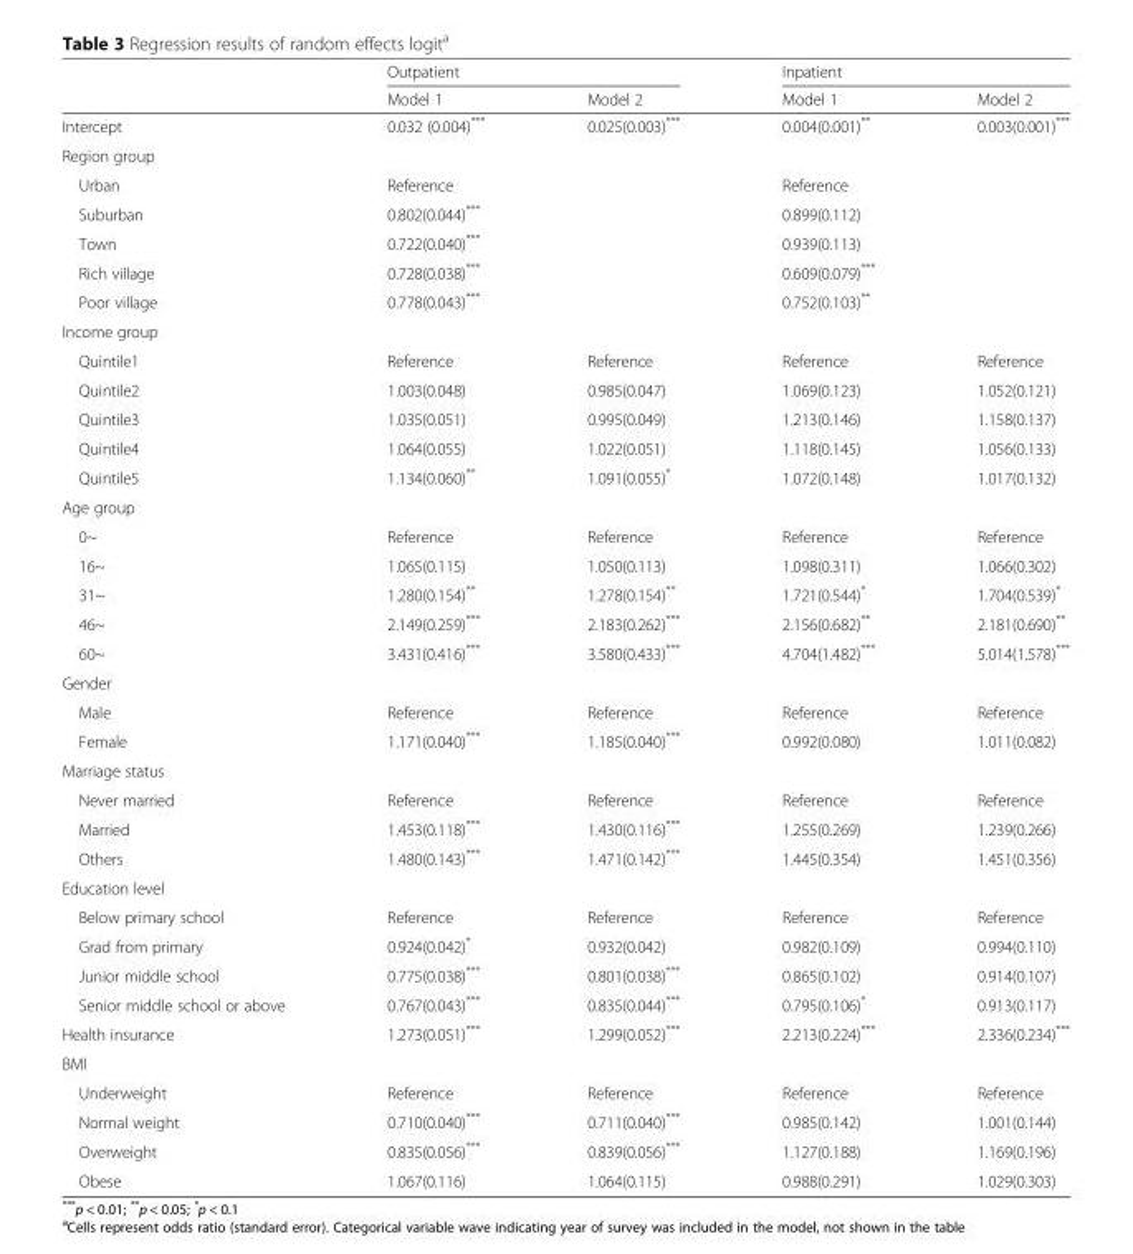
<table><thead><tr><td rowspan="2"></td><td colspan="2">Outpatient</td><td colspan="2">Inpatient</td></tr><tr><td>Model 1</td><td>Model 2</td><td>Model 1</td><td>Model 2</td></tr></thead><tbody><tr><td>Intercept</td><td>0.032 (0.004)***</td><td>0.025(0.003)***</td><td>0.004(0.001)**</td><td>0.003(0.001)***</td></tr><tr><td colspan="5">Region group</td></tr><tr><td>Urban</td><td colspan="2">Reference</td><td colspan="2">Reference</td></tr><tr><td>Suburban</td><td colspan="2">0.802(0.044)***</td><td colspan="2">0.899(0.112)</td></tr><tr><td>Town</td><td colspan="2">0.722(0.040)***</td><td colspan="2">0.939(0.113)</td></tr><tr><td>Rich village</td><td colspan="2">0.728(0.038)***</td><td colspan="2">0.609(0.079)***</td></tr><tr><td>Poor village</td><td colspan="2">0.778(0.043)***</td><td colspan="2">0.752(0.103)**</td></tr><tr><td colspan="5">Income group</td></tr><tr><td>Quintile1</td><td>Reference</td><td>Reference</td><td>Reference</td><td>Reference</td></tr><tr><td>Quintile2</td><td>1.003(0.048)</td><td>0.985(0.047)</td><td>1.069(0.123)</td><td>1.052(0.121)</td></tr><tr><td>Quintile3</td><td>1.035(0.051)</td><td>0.995(0.049)</td><td>1.213(0.146)</td><td>1.158(0.137)</td></tr><tr><td>Quintile4</td><td>1.064(0.055)</td><td>1.022(0.051)</td><td>1.118(0.145)</td><td>1.056(0.133)</td></tr><tr><td>Quintile5</td><td>1.134(0.060)**</td><td>1.091(0.055)*</td><td>1.072(0.148)</td><td>1.017(0.132)</td></tr><tr><td colspan="5">Age group</td></tr><tr><td>0~</td><td>Reference</td><td>Reference</td><td>Reference</td><td>Reference</td></tr><tr><td>16~</td><td>1.065(0.115)</td><td>1.050(0.113)</td><td>1.098(0.311)</td><td>1.066(0.302)</td></tr><tr><td>31~</td><td>1.280(0.154)**</td><td>1.278(0.154)**</td><td>1.721(0.544)*</td><td>1.704(0.539)*</td></tr><tr><td>46~</td><td>2.149(0.259)***</td><td>2.183(0.262)***</td><td>2.156(0.682)**</td><td>2.181(0.690)**</td></tr><tr><td>60~</td><td>3.431(0.416)***</td><td>3.580(0.433)***</td><td>4.704(1.482)***</td><td>5.014(1.578)***</td></tr><tr><td colspan="5">Gender</td></tr><tr><td>Male</td><td>Reference</td><td>Reference</td><td>Reference</td><td>Reference</td></tr><tr><td>Female</td><td>1.171(0.040)***</td><td>1.185(0.040)***</td><td>0.992(0.080)</td><td>1.011(0.082)</td></tr><tr><td colspan="5">Marriage status</td></tr><tr><td>Never married</td><td>Reference</td><td>Reference</td><td>Reference</td><td>Reference</td></tr><tr><td>Married</td><td>1.453(0.118)***</td><td>1.430(0.116)***</td><td>1.255(0.269)</td><td>1.239(0.266)</td></tr><tr><td>Others</td><td>1.480(0.143)***</td><td>1.471(0.142)***</td><td>1.445(0.354)</td><td>1.451(0.356)</td></tr><tr><td colspan="5">Education level</td></tr><tr><td>Below primary school</td><td>Reference</td><td>Reference</td><td>Reference</td><td>Reference</td></tr><tr><td>Grad from primary</td><td>0.924(0.042)*</td><td>0.932(0.042)</td><td>0.982(0.109)</td><td>0.994(0.110)</td></tr><tr><td>Junior middle school</td><td>0.775(0.038)***</td><td>0.801(0.038)***</td><td>0.865(0.102)</td><td>0.914(0.107)</td></tr><tr><td>Senior middle school or above</td><td>0.767(0.043)***</td><td>0.835(0.044)***</td><td>0.795(0.106)*</td><td>0.913(0.117)</td></tr><tr><td>Health insurance</td><td>1.273(0.051)***</td><td>1.299(0.052)***</td><td>2.213(0.224)***</td><td>2.336(0.234)***</td></tr><tr><td colspan="5">BMI</td></tr><tr><td>Underweight</td><td>Reference</td><td>Reference</td><td>Reference</td><td>Reference</td></tr><tr><td>Normal weight</td><td>0.710(0.040)***</td><td>0.711(0.040)***</td><td>0.985(0.142)</td><td>1.001(0.144)</td></tr><tr><td>Overweight</td><td>0.835(0.056)***</td><td>0.839(0.056)***</td><td>1.127(0.188)</td><td>1.169(0.196)</td></tr><tr><td>Obese</td><td>1.067(0.116)</td><td>1.064(0.115)</td><td>0.988(0.291)</td><td>1.029(0.303)</td></tr></tbody></table>